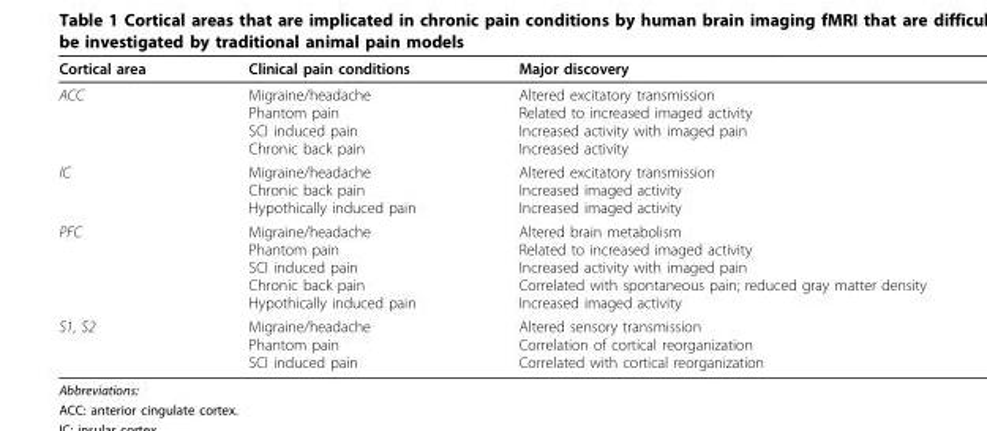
<table><thead><tr><td>Cortical area</td><td>Clinical pain conditions</td><td>Major discovery</td></tr></thead><tbody><tr><td>ACC</td><td>Migraine/headache Phantom pain SCI induced pain Chronic back pain</td><td>Altered excitatory transmission Related to increased imaged activity Increased activity with imaged pain Increased activity</td></tr><tr><td>IC</td><td>Migraine/headache Chronic back pain Hypothically induced pain</td><td>Altered excitatory transmission Increased imaged activity Increased imaged activity</td></tr><tr><td>PFC</td><td>Migraine/headache Phantom pain SCI induced pain Chronic back pain Hypothically induced pain</td><td>Altered brain metabolism Related to increased imaged activity Increased activity with imaged pain Correlated with spontaneous pain; reduced gray matter density Increased imaged activity</td></tr><tr><td>S1, S2</td><td>Migraine/headache Phantom pain SCI induced pain</td><td>Altered sensory transmission Correlation of cortical reorganization Correlated with cortical reorganization</td></tr></tbody></table>